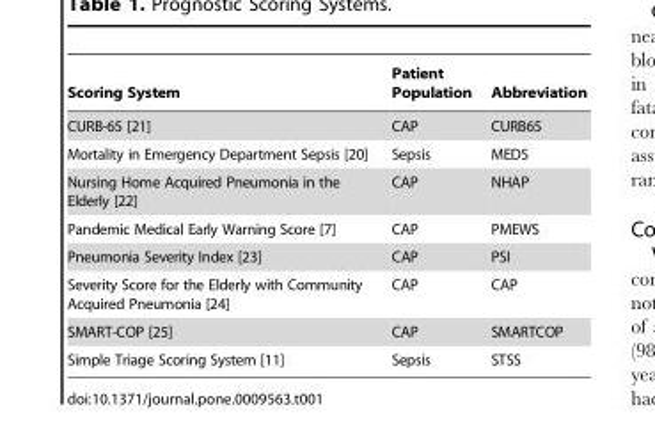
<table><thead><tr><td>Scoring System</td><td>Patient Population</td><td>Abbreviation</td></tr></thead><tbody><tr><td>CURB-65 [21]</td><td>CAP</td><td>CURB65</td></tr><tr><td>Mortality in Emergency Department Sepsis [20]</td><td>Sepsis</td><td>MEDS</td></tr><tr><td>Nursing Home Acquired Pneumonia in the Elderly [22]</td><td>CAP</td><td>NHAP</td></tr><tr><td>Pandemic Medical Early Warning Score [7]</td><td>CAP</td><td>PMEWS</td></tr><tr><td>Pneumonia Severity Index [23]</td><td>CAP</td><td>PSI</td></tr><tr><td>Severity Score for the Elderly with Community Acquired Pneumonia [24]</td><td>CAP</td><td>CAP</td></tr><tr><td>SMART-COP [25]</td><td>CAP</td><td>SMARTCOP</td></tr><tr><td>Simple Triage Scoring System [11]</td><td>Sepsis</td><td>STSS</td></tr></tbody></table>